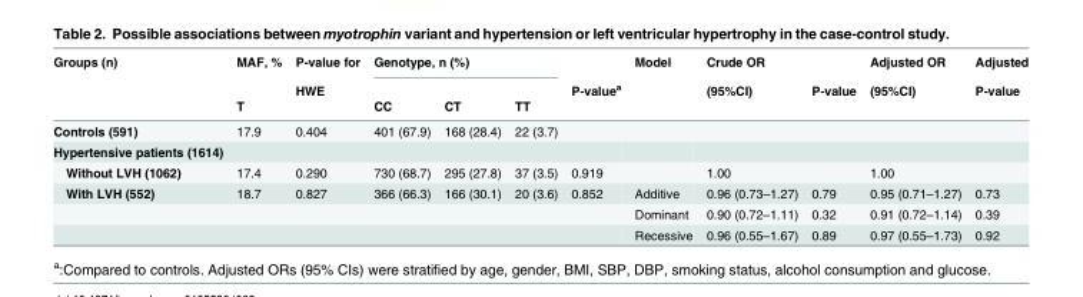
<table><thead><tr><td rowspan="3">Groups (n)</td><td rowspan="3">MAF, % T</td><td rowspan="3">P-value for HWE</td><td colspan="3">Genotype, n (%)</td><td rowspan="3">P-value<sup>a</sup></td><td rowspan="3">Model</td><td rowspan="3">Crude OR (95%CI)</td><td rowspan="3">P-value</td><td rowspan="3">Adjusted OR (95%CI)</td><td rowspan="3">Adjusted P-value</td></tr><tr><td rowspan="2">CC</td><td rowspan="2">CT</td><td rowspan="2">TT</td></tr><tr></tr></thead><tbody><tr><td>Controls (591)</td><td>17.9</td><td>0.404</td><td>401 (67.9)</td><td>168 (28.4)</td><td>22 (3.7)</td><td></td><td></td><td></td><td></td><td></td><td></td></tr><tr><td colspan="12">Hypertensive patients (1614)</td></tr><tr><td>Without LVH (1062)</td><td>17.4</td><td>0.290</td><td>730 (68.7)</td><td>295 (27.8)</td><td>37 (3.5)</td><td>0.919</td><td></td><td>1.00</td><td></td><td>1.00</td><td></td></tr><tr><td rowspan="3">With LVH (552)</td><td>18.7</td><td>0.827</td><td>366 (66.3)</td><td>166 (30.1)</td><td>20 (3.6)</td><td>0.852</td><td>Additive</td><td>0.96 (0.73–1.27)</td><td>0.79</td><td>0.95 (0.71–1.27)</td><td>0.73</td></tr><tr><td></td><td></td><td></td><td></td><td></td><td></td><td>Dominant</td><td>0.90 (0.72–1.11)</td><td>0.32</td><td>0.91 (0.72–1.14)</td><td>0.39</td></tr><tr><td></td><td></td><td></td><td></td><td></td><td></td><td>Recessive</td><td>0.96 (0.55–1.67)</td><td>0.89</td><td>0.97 (0.55–1.73)</td><td>0.92</td></tr></tbody></table>